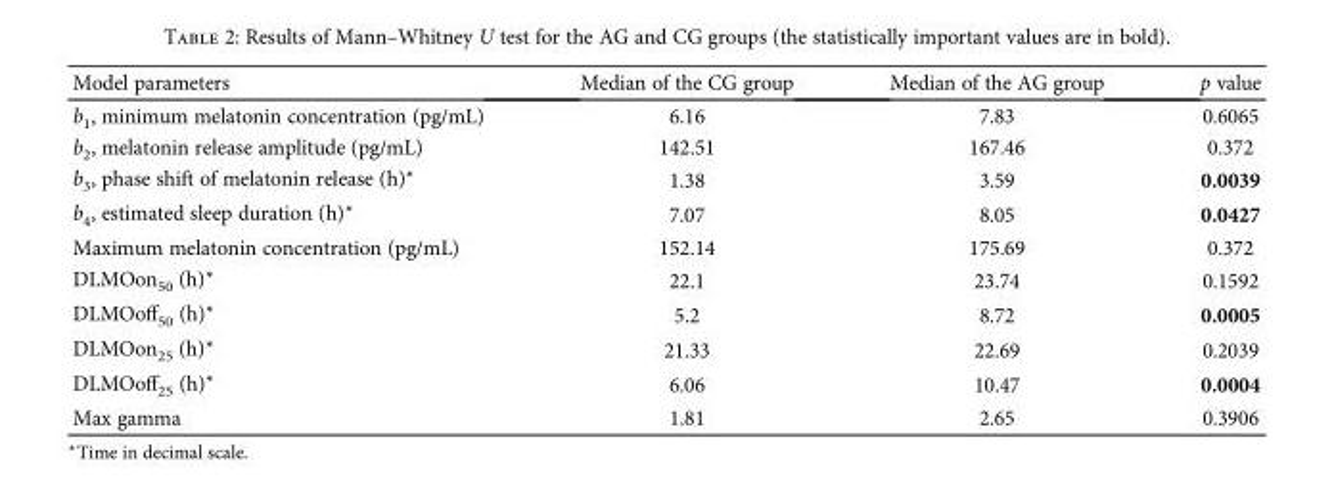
<table><thead><tr><td>Model parameters</td><td>Median of the CG group</td><td>Median of the AG group</td><td>p value</td></tr></thead><tbody><tr><td>b<sub>1</sub>, minimum melatonin concentration (pg/mL)</td><td>6.16</td><td>7.83</td><td>0.6065</td></tr><tr><td>b<sub>2</sub>, melatonin release amplitude (pg/mL)</td><td>142.51</td><td>167.46</td><td>0.372</td></tr><tr><td>b<sub>3</sub>, phase shift of melatonin release (h)∗</td><td>1.38</td><td>3.59</td><td>0.0039</td></tr><tr><td>b<sub>4</sub>, estimated sleep duration (h)∗</td><td>7.07</td><td>8.05</td><td>0.0427</td></tr><tr><td>Maximum melatonin concentration (pg/mL)</td><td>152.14</td><td>175.69</td><td>0.372</td></tr><tr><td>DLMOon<sub>50</sub> (h)∗</td><td>22.1</td><td>23.74</td><td>0.1592</td></tr><tr><td>DLMOoff<sub>50</sub> (h)∗</td><td>5.2</td><td>8.72</td><td>0.0005</td></tr><tr><td>DLMOon<sub>25</sub> (h)∗</td><td>21.33</td><td>22.69</td><td>0.2039</td></tr><tr><td>DLMOoff<sub>25</sub> (h)∗</td><td>6.06</td><td>10.47</td><td>0.0004</td></tr><tr><td>Max gamma</td><td>1.81</td><td>2.65</td><td>0.3906</td></tr></tbody></table>